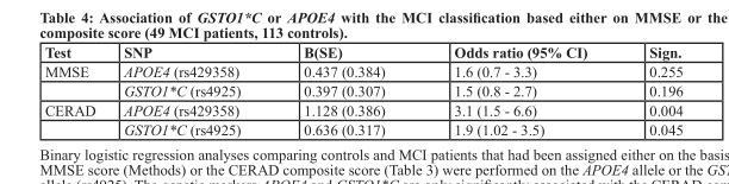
<table><thead><tr><td>Test</td><td>snP</td><td>b(se)</td><td>Odds ratio (95% CI)</td><td>Sign.</td></tr></thead><tbody><tr><td rowspan="2">MMSE</td><td>APOE4 (rs429358)</td><td>0.437 (0.384)</td><td>1.6 (0.7 - 3.3)</td><td>0.255</td></tr><tr><td>GSTO1*C (rs4925)</td><td>0.397 (0.307)</td><td>1.5 (0.8 - 2.7)</td><td>0.196</td></tr><tr><td rowspan="2">CERAD</td><td>APOE4 (rs429358)</td><td>1.128 (0.386)</td><td>3.1 (1.5 - 6.6)</td><td>0.004</td></tr><tr><td>GSTO1*C (rs4925)</td><td>0.636 (0.317)</td><td>1.9 (1.02 - 3.5)</td><td>0.045</td></tr></tbody></table>